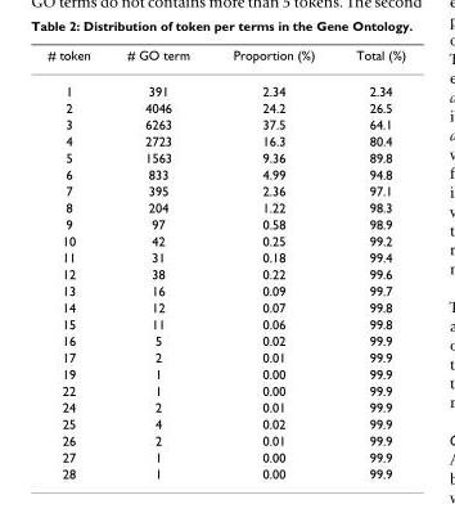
<table><thead><tr><td># token</td><td># GO term</td><td>Proportion (%)</td><td>Total (%)</td></tr></thead><tbody><tr><td>1</td><td>391</td><td>2.34</td><td>2.34</td></tr><tr><td>2</td><td>4046</td><td>24.2</td><td>26.5</td></tr><tr><td>3</td><td>6263</td><td>37.5</td><td>64.1</td></tr><tr><td>4</td><td>2723</td><td>16.3</td><td>80.4</td></tr><tr><td>5</td><td>1563</td><td>9.36</td><td>89.8</td></tr><tr><td>6</td><td>833</td><td>4.99</td><td>94.8</td></tr><tr><td>7</td><td>395</td><td>2.36</td><td>97.1</td></tr><tr><td>8</td><td>204</td><td>1.22</td><td>98.3</td></tr><tr><td>9</td><td>97</td><td>0.58</td><td>98.9</td></tr><tr><td>10</td><td>42</td><td>0.25</td><td>99.2</td></tr><tr><td>11</td><td>31</td><td>0.18</td><td>99.4</td></tr><tr><td>12</td><td>38</td><td>0.22</td><td>99.6</td></tr><tr><td>13</td><td>16</td><td>0.09</td><td>99.7</td></tr><tr><td>14</td><td>12</td><td>0.07</td><td>99.8</td></tr><tr><td>15</td><td>11</td><td>0.06</td><td>99.8</td></tr><tr><td>16</td><td>5</td><td>0.02</td><td>99.9</td></tr><tr><td>17</td><td>2</td><td>0.01</td><td>99.9</td></tr><tr><td>19</td><td>1</td><td>0.00</td><td>99.9</td></tr><tr><td>22</td><td>1</td><td>0.00</td><td>99.9</td></tr><tr><td>24</td><td>2</td><td>0.01</td><td>99.9</td></tr><tr><td>25</td><td>4</td><td>0.02</td><td>99.9</td></tr><tr><td>26</td><td>2</td><td>0.01</td><td>99.9</td></tr><tr><td>27</td><td>1</td><td>0.00</td><td>99.9</td></tr><tr><td>28</td><td>1</td><td>0.00</td><td>99.9</td></tr></tbody></table>